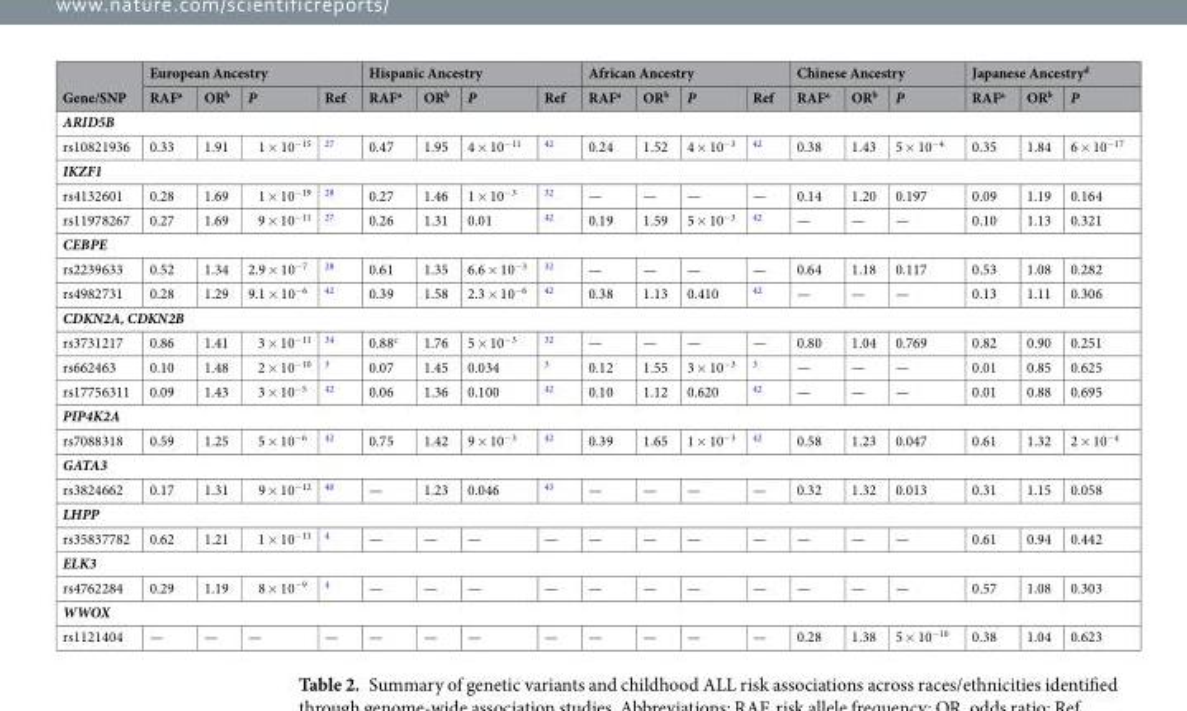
<table><thead><tr><td rowspan="2">Gene/SNP</td><td colspan="4">European Ancestry</td><td colspan="4">Hispanic Ancestry</td><td colspan="4">African Ancestry</td><td colspan="3">Chinese Ancestry</td><td colspan="3">Japanese Ancestry<sup>d</sup></td></tr><tr><td>RAF<sup>a</sup></td><td>OR<sup>b</sup></td><td>P</td><td>Ref</td><td>RAF<sup>a</sup></td><td>OR<sup>b</sup></td><td>P</td><td>Ref</td><td>RAF<sup>a</sup></td><td>OR<sup>b</sup></td><td>P</td><td>Ref</td><td>RAF<sup>a</sup></td><td>OR<sup>b</sup></td><td>P</td><td>RAF<sup>a</sup></td><td>OR<sup>b</sup></td><td>P</td></tr></thead><tbody><tr><td colspan="19">ARID5B</td></tr><tr><td>rs10821936</td><td>0.33</td><td>1.91</td><td>1 × 10<sup>−15</sup></td><td><sup>27</sup></td><td>0.47</td><td>1.95</td><td>4 × 10<sup>−11</sup></td><td><sup>42</sup></td><td>0.24</td><td>1.52</td><td>4 × 10<sup>−3</sup></td><td><sup>42</sup></td><td>0.38</td><td>1.43</td><td>5 × 10<sup>−4</sup></td><td>0.35</td><td>1.84</td><td>6 × 10<sup>−17</sup></td></tr><tr><td colspan="19">IKZF1</td></tr><tr><td>rs4132601</td><td>0.28</td><td>1.69</td><td>1 × 10<sup>−19</sup></td><td><sup>28</sup></td><td>0.27</td><td>1.46</td><td>1 × 10<sup>−3</sup></td><td><sup>32</sup></td><td>—</td><td>—</td><td>—</td><td>—</td><td>0.14</td><td>1.20</td><td>0.197</td><td>0.09</td><td>1.19</td><td>0.164</td></tr><tr><td>rs11978267</td><td>0.27</td><td>1.69</td><td>9 × 10<sup>−11</sup></td><td><sup>27</sup></td><td>0.26</td><td>1.31</td><td>0.01</td><td><sup>42</sup></td><td>0.19</td><td>1.59</td><td>5 × 10<sup>−3</sup></td><td><sup>42</sup></td><td>—</td><td>—</td><td>—</td><td>0.10</td><td>1.13</td><td>0.321</td></tr><tr><td colspan="19">CEBPE</td></tr><tr><td>rs2239633</td><td>0.52</td><td>1.34</td><td>2.9 × 10<sup>−7</sup></td><td><sup>28</sup></td><td>0.61</td><td>1.35</td><td>6.6 × 10<sup>−3</sup></td><td><sup>32</sup></td><td>—</td><td>—</td><td>—</td><td>—</td><td>0.64</td><td>1.18</td><td>0.117</td><td>0.53</td><td>1.08</td><td>0.282</td></tr><tr><td>rs4982731</td><td>0.28</td><td>1.29</td><td>9.1 × 10<sup>−6</sup></td><td><sup>42</sup></td><td>0.39</td><td>1.58</td><td>2.3 × 10<sup>−6</sup></td><td><sup>42</sup></td><td>0.38</td><td>1.13</td><td>0.410</td><td><sup>42</sup></td><td>—</td><td>—</td><td>—</td><td>0.13</td><td>1.11</td><td>0.306</td></tr><tr><td colspan="19">CDKN2A, CDKN2B</td></tr><tr><td>rs3731217</td><td>0.86</td><td>1.41</td><td>3 × 10<sup>−11</sup></td><td><sup>34</sup></td><td>0.88<sup>c</sup></td><td>1.76</td><td>5 × 10<sup>−3</sup></td><td><sup>32</sup></td><td>—</td><td>—</td><td>—</td><td>—</td><td>0.80</td><td>1.04</td><td>0.769</td><td>0.82</td><td>0.90</td><td>0.251</td></tr><tr><td>rs662463</td><td>0.10</td><td>1.48</td><td>2 × 10<sup>−10</sup></td><td><sup>3</sup></td><td>0.07</td><td>1.45</td><td>0.034</td><td><sup>3</sup></td><td>0.12</td><td>1.55</td><td>3 × 10<sup>−3</sup></td><td><sup>3</sup></td><td>—</td><td>—</td><td>—</td><td>0.01</td><td>0.85</td><td>0.625</td></tr><tr><td>rs17756311</td><td>0.09</td><td>1.43</td><td>3 × 10<sup>−5</sup></td><td><sup>42</sup></td><td>0.06</td><td>1.36</td><td>0.100</td><td><sup>42</sup></td><td>0.10</td><td>1.12</td><td>0.620</td><td><sup>42</sup></td><td>—</td><td>—</td><td>—</td><td>0.01</td><td>0.88</td><td>0.695</td></tr><tr><td colspan="19">PIP4K2A</td></tr><tr><td>rs7088318</td><td>0.59</td><td>1.25</td><td>5 × 10<sup>−6</sup></td><td><sup>42</sup></td><td>0.75</td><td>1.42</td><td>9 × 10<sup>−3</sup></td><td><sup>42</sup></td><td>0.39</td><td>1.65</td><td>1 × 10<sup>−3</sup></td><td><sup>42</sup></td><td>0.58</td><td>1.23</td><td>0.047</td><td>0.61</td><td>1.32</td><td>2 × 10<sup>−4</sup></td></tr><tr><td colspan="19">GATA3</td></tr><tr><td>rs3824662</td><td>0.17</td><td>1.31</td><td>9 × 10<sup>−12</sup></td><td><sup>40</sup></td><td>—</td><td>1.23</td><td>0.046</td><td><sup>43</sup></td><td>—</td><td>—</td><td>—</td><td>—</td><td>0.32</td><td>1.32</td><td>0.013</td><td>0.31</td><td>1.15</td><td>0.058</td></tr><tr><td colspan="19">LHPP</td></tr><tr><td>rs35837782</td><td>0.62</td><td>1.21</td><td>1 × 10<sup>−11</sup></td><td><sup>4</sup></td><td>—</td><td>—</td><td>—</td><td>—</td><td>—</td><td>—</td><td>—</td><td>—</td><td>—</td><td>—</td><td>—</td><td>0.61</td><td>0.94</td><td>0.442</td></tr><tr><td colspan="19">ELK3</td></tr><tr><td>rs4762284</td><td>0.29</td><td>1.19</td><td>8 × 10<sup>−9</sup></td><td><sup>4</sup></td><td>—</td><td>—</td><td>—</td><td>—</td><td>—</td><td>—</td><td>—</td><td>—</td><td>—</td><td>—</td><td>—</td><td>0.57</td><td>1.08</td><td>0.303</td></tr><tr><td colspan="19">WWOX</td></tr><tr><td>rs1121404</td><td>—</td><td>—</td><td>—</td><td>—</td><td>—</td><td>—</td><td>—</td><td>—</td><td>—</td><td>—</td><td>—</td><td>—</td><td>0.28</td><td>1.38</td><td>5 × 10<sup>−10</sup></td><td>0.38</td><td>1.04</td><td>0.623</td></tr></tbody></table>